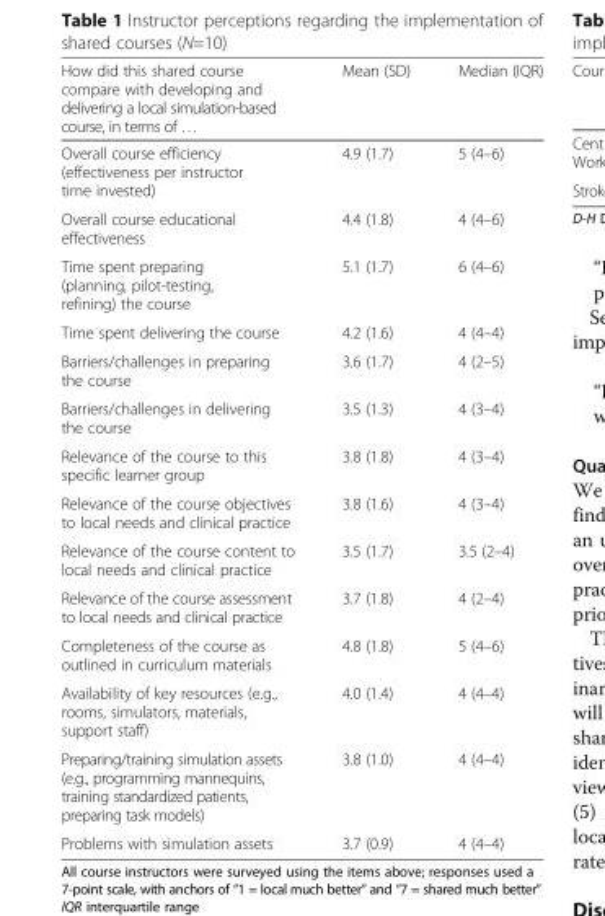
<table><thead><tr><td>How did this shared course compare with developing and delivering a local simulation-based course, in terms of …</td><td>Mean (SD)</td><td>Median (IQR)</td></tr></thead><tbody><tr><td>Overall course efficiency (effectiveness per instructor time invested)</td><td>4.9 (1.7)</td><td>5 (4–6)</td></tr><tr><td>Overall course educational effectiveness</td><td>4.4 (1.8)</td><td>4 (4–6)</td></tr><tr><td>Time spent preparing (planning, pilot-testing, refining) the course</td><td>5.1 (1.7)</td><td>6 (4–6)</td></tr><tr><td>Time spent delivering the course</td><td>4.2 (1.6)</td><td>4 (4–4)</td></tr><tr><td>Barriers/challenges in preparing the course</td><td>3.6 (1.7)</td><td>4 (2–5)</td></tr><tr><td>Barriers/challenges in delivering the course</td><td>3.5 (1.3)</td><td>4 (3–4)</td></tr><tr><td>Relevance of the course to this specific learner group</td><td>3.8 (1.8)</td><td>4 (3–4)</td></tr><tr><td>Relevance of the course objectives to local needs and clinical practice</td><td>3.8 (1.6)</td><td>4 (3–4)</td></tr><tr><td>Relevance of the course content to local needs and clinical practice</td><td>3.5 (1.7)</td><td>3.5 (2–4)</td></tr><tr><td>Relevance of the course assessment to local needs and clinical practice</td><td>3.7 (1.8)</td><td>4 (2–4)</td></tr><tr><td>Completeness of the course as outlined in curriculum materials</td><td>4.8 (1.8)</td><td>5 (4–6)</td></tr><tr><td>Availability of key resources (e.g., rooms, simulators, materials, support staff)</td><td>4.0 (1.4)</td><td>4 (4–4)</td></tr><tr><td>Preparing/training simulation assets (e.g., programming mannequins, training standardized patients, preparing task models)</td><td>3.8 (1.0)</td><td>4 (4–4)</td></tr><tr><td>Problems with simulation assets</td><td>3.7 (0.9)</td><td>4 (4–4)</td></tr></tbody></table>